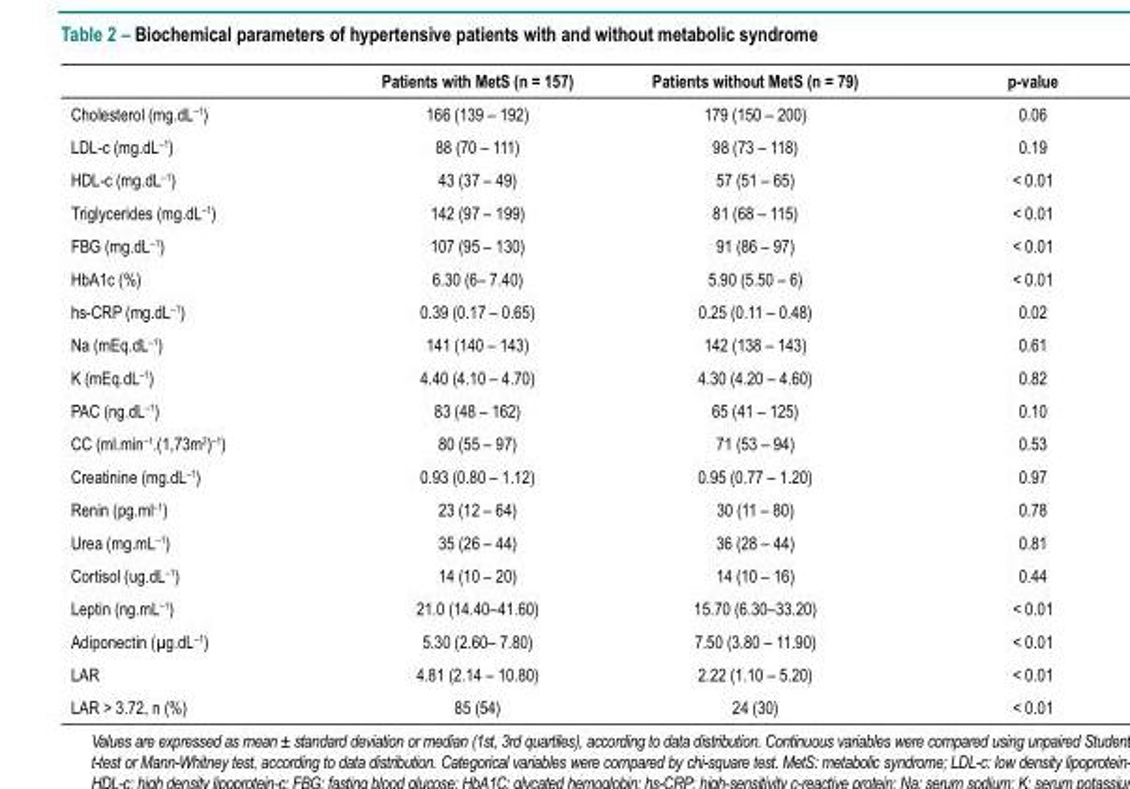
<table><thead><tr><td></td><td>Patients with MetS (n = 157)</td><td>Patients without MetS (n = 79)</td><td>p-value</td></tr></thead><tbody><tr><td>Cholesterol (mg.dL<sup>–1</sup>)</td><td>166 (139 – 192)</td><td>179 (150 – 200)</td><td>0.06</td></tr><tr><td>LDL-c (mg.dL<sup>–1</sup>)</td><td>88 (70 – 111)</td><td>98 (73 – 118)</td><td>0.19</td></tr><tr><td>HDL-c (mg.dL<sup>–1</sup>)</td><td>43 (37 – 49)</td><td>57 (51 – 65)</td><td>&lt; 0.01</td></tr><tr><td>Triglycerides (mg.dL<sup>–1</sup>)</td><td>142 (97 – 199)</td><td>81 (68 – 115)</td><td>&lt; 0.01</td></tr><tr><td>FBG (mg.dL<sup>–1</sup>)</td><td>107 (95 – 130)</td><td>91 (86 – 97)</td><td>&lt; 0.01</td></tr><tr><td>HbA1c (%)</td><td>6.30 (6– 7.40)</td><td>5.90 (5.50 – 6)</td><td>&lt; 0.01</td></tr><tr><td>hs-CRP (mg.dL<sup>–1</sup>)</td><td>0.39 (0.17 – 0.65)</td><td>0.25 (0.11 – 0.48)</td><td>0.02</td></tr><tr><td>Na (mEq.dL<sup>–1</sup>)</td><td>141 (140 – 143)</td><td>142 (138 – 143)</td><td>0.61</td></tr><tr><td>K (mEq.dL<sup>–1</sup>)</td><td>4.40 (4.10 – 4.70)</td><td>4.30 (4.20 – 4.60)</td><td>0.82</td></tr><tr><td>PAC (ng.dL<sup>–1</sup>)</td><td>83 (48 – 162)</td><td>65 (41 – 125)</td><td>0.10</td></tr><tr><td>CC (ml.min<sup>–1</sup>.(1,73m<sup>2</sup>)<sup>–1</sup>)</td><td>80 (55 – 97)</td><td>71 (53 – 94)</td><td>0.53</td></tr><tr><td>Creatinine (mg.dL<sup>–1</sup>)</td><td>0.93 (0.80 – 1.12)</td><td>0.95 (0.77 – 1.20)</td><td>0.97</td></tr><tr><td>Renin (pg.ml<sup>–1</sup>)</td><td>23 (12 – 64)</td><td>30 (11 – 80)</td><td>0.78</td></tr><tr><td>Urea (mg.mL<sup>–1</sup>)</td><td>35 (26 – 44)</td><td>36 (28 – 44)</td><td>0.81</td></tr><tr><td>Cortisol (ug.dL<sup>–1</sup>)</td><td>14 (10 – 20)</td><td>14 (10 – 16)</td><td>0.44</td></tr><tr><td>Leptin (ng.mL<sup>–1</sup>)</td><td>21.0 (14.40–41.60)</td><td>15.70 (6.30–33.20)</td><td>&lt; 0.01</td></tr><tr><td>Adiponectin (µg.dL<sup>–1</sup>)</td><td>5.30 (2.60– 7.80)</td><td>7.50 (3.80 – 11.90)</td><td>&lt; 0.01</td></tr><tr><td>LAR</td><td>4.81 (2.14 – 10.80)</td><td>2.22 (1.10 – 5.20)</td><td>&lt; 0.01</td></tr><tr><td>LAR &gt; 3.72, n (%)</td><td>85 (54)</td><td>24 (30)</td><td>&lt; 0.01</td></tr></tbody></table>